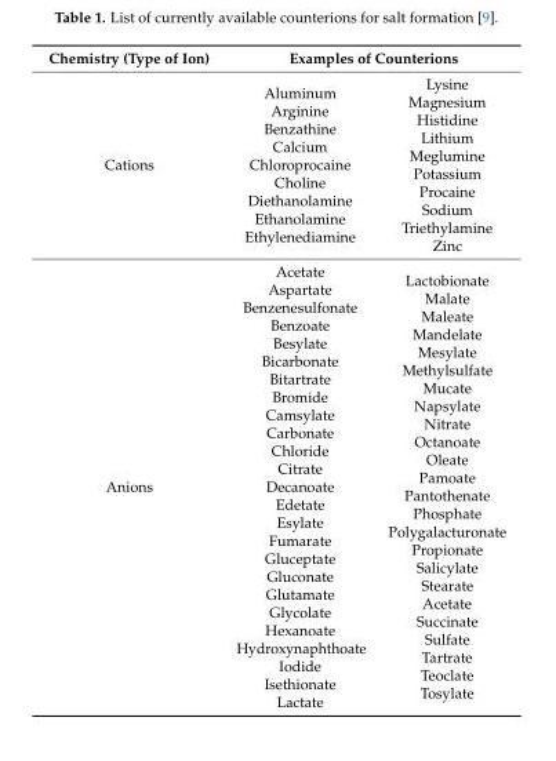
<table><thead><tr><td rowspan="2">Chemistry (Type of Ion) Cations</td><td colspan="2">Examples of Counterions</td></tr><tr><td>Aluminum Arginine Benzathine Calcium Chloroprocaine Choline Diethanolamine Ethanolamine Ethylenediamine</td><td>Lysine Magnesium Histidine Lithium Meglumine Potassium Procaine Sodium Triethylamine Zinc</td></tr></thead><tbody><tr><td>Anions</td><td>Acetate Aspartate Benzenesulfonate Benzoate Besylate Bicarbonate Bitartrate Bromide Camsylate Carbonate Chloride Citrate Decanoate Edetate Esylate Fumarate Gluceptate Gluconate Glutamate Glycolate Hexanoate Hydroxynaphthoate Iodide Isethionate Lactate</td><td>Lactobionate Malate Maleate Mandelate Mesylate Methylsulfate Mucate Napsylate Nitrate Octanoate Oleate Pamoate Pantothenate Phosphate Polygalacturonate Propionate Salicylate Stearate Acetate Succinate Sulfate Tartrate Teoclate Tosylate</td></tr></tbody></table>